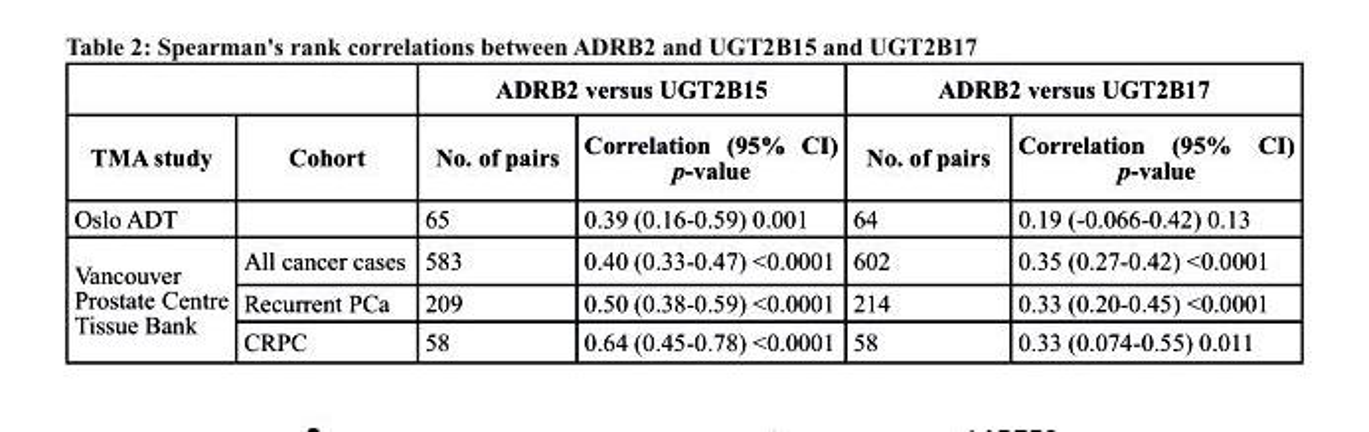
<table><thead><tr><td rowspan="2">tMA study</td><td rowspan="2">cohort</td><td colspan="2">Adrb2 versus uGt2b15</td><td colspan="2">Adrb2 versus uGt2b17</td></tr><tr><td>No. of pairs</td><td>correlation (95% cI) p-value</td><td>No. of pairs</td><td>correlation (95% cI) p-value</td></tr></thead><tbody><tr><td>Oslo ADT</td><td></td><td>65</td><td>0.39 (0.16-0.59) 0.001</td><td>64</td><td>0.19 (-0.066-0.42) 0.13</td></tr><tr><td rowspan="3">Vancouver Prostate Centre Tissue Bank</td><td>All cancer cases</td><td>583</td><td>0.40 (0.33-0.47) &lt;0.0001</td><td>602</td><td>0.35 (0.27-0.42) &lt;0.0001</td></tr><tr><td>Recurrent PCa</td><td>209</td><td>0.50 (0.38-0.59) &lt;0.0001</td><td>214</td><td>0.33 (0.20-0.45) &lt;0.0001</td></tr><tr><td>CRPC</td><td>58</td><td>0.64 (0.45-0.78) &lt;0.0001</td><td>58</td><td>0.33 (0.074-0.55) 0.011</td></tr></tbody></table>